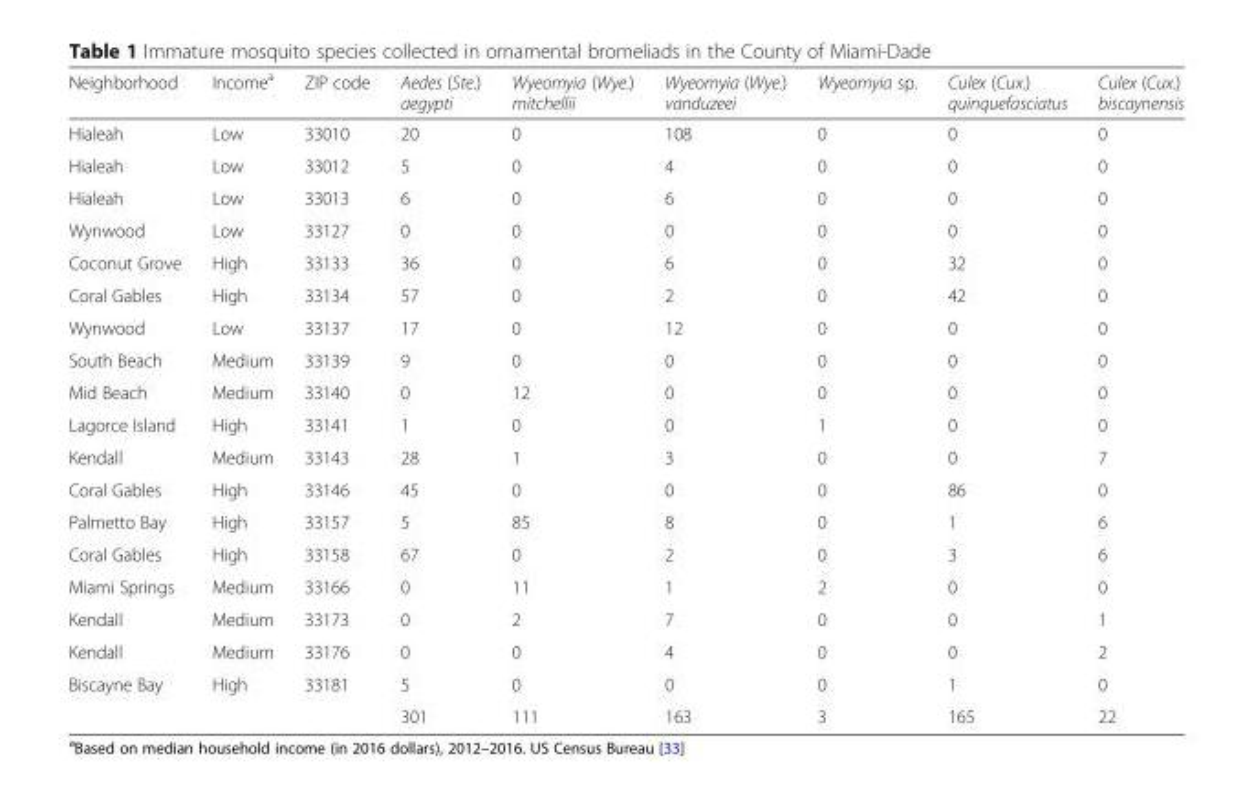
<table><thead><tr><td>Neighborhood</td><td>Income<sup>a</sup></td><td>ZIP code</td><td>Aedes (Ste.) aegypti</td><td>Wyeomyia (Wye.) mitchellii</td><td>Wyeomyia (Wye.) vanduzeei</td><td>Wyeomyia sp.</td><td>Culex (Cux.) quinquefasciatus</td><td>Culex (Cux.) biscaynensis</td></tr></thead><tbody><tr><td>Hialeah</td><td>Low</td><td>33010</td><td>20</td><td>0</td><td>108</td><td>0</td><td>0</td><td>0</td></tr><tr><td>Hialeah</td><td>Low</td><td>33012</td><td>5</td><td>0</td><td>4</td><td>0</td><td>0</td><td>0</td></tr><tr><td>Hialeah</td><td>Low</td><td>33013</td><td>6</td><td>0</td><td>6</td><td>0</td><td>0</td><td>0</td></tr><tr><td>Wynwood</td><td>Low</td><td>33127</td><td>0</td><td>0</td><td>0</td><td>0</td><td>0</td><td>0</td></tr><tr><td>Coconut Grove</td><td>High</td><td>33133</td><td>36</td><td>0</td><td>6</td><td>0</td><td>32</td><td>0</td></tr><tr><td>Coral Gables</td><td>High</td><td>33134</td><td>57</td><td>0</td><td>2</td><td>0</td><td>42</td><td>0</td></tr><tr><td>Wynwood</td><td>Low</td><td>33137</td><td>17</td><td>0</td><td>12</td><td>0</td><td>0</td><td>0</td></tr><tr><td>South Beach</td><td>Medium</td><td>33139</td><td>9</td><td>0</td><td>0</td><td>0</td><td>0</td><td>0</td></tr><tr><td>Mid Beach</td><td>Medium</td><td>33140</td><td>0</td><td>12</td><td>0</td><td>0</td><td>0</td><td>0</td></tr><tr><td>Lagorce Island</td><td>High</td><td>33141</td><td>1</td><td>0</td><td>0</td><td>1</td><td>0</td><td>0</td></tr><tr><td>Kendall</td><td>Medium</td><td>33143</td><td>28</td><td>1</td><td>3</td><td>0</td><td>0</td><td>7</td></tr><tr><td>Coral Gables</td><td>High</td><td>33146</td><td>45</td><td>0</td><td>0</td><td>0</td><td>86</td><td>0</td></tr><tr><td>Palmetto Bay</td><td>High</td><td>33157</td><td>5</td><td>85</td><td>8</td><td>0</td><td>1</td><td>6</td></tr><tr><td>Coral Gables</td><td>High</td><td>33158</td><td>67</td><td>0</td><td>2</td><td>0</td><td>3</td><td>6</td></tr><tr><td>Miami Springs</td><td>Medium</td><td>33166</td><td>0</td><td>11</td><td>1</td><td>2</td><td>0</td><td>0</td></tr><tr><td>Kendall</td><td>Medium</td><td>33173</td><td>0</td><td>2</td><td>7</td><td>0</td><td>0</td><td>1</td></tr><tr><td>Kendall</td><td>Medium</td><td>33176</td><td>0</td><td>0</td><td>4</td><td>0</td><td>0</td><td>2</td></tr><tr><td rowspan="2">Biscayne Bay</td><td>High</td><td>33181</td><td>5</td><td>0</td><td>0</td><td>0</td><td>1</td><td>0</td></tr><tr><td></td><td></td><td>301</td><td>111</td><td>163</td><td>3</td><td>165</td><td>22</td></tr></tbody></table>